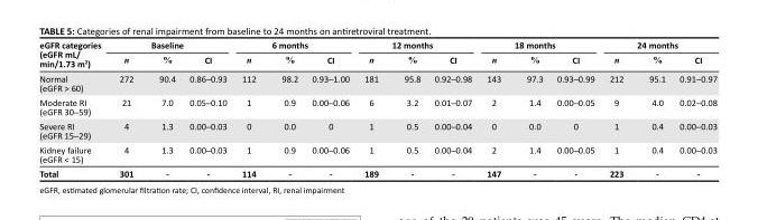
<table><thead><tr><td rowspan="2">eGFR categories (eGFR mL/ min/1.73 m<sup>2</sup>)</td><td colspan="3">Baseline</td><td colspan="3">6 months</td><td colspan="3">12 months</td><td colspan="3">18 months</td><td colspan="3">24 months</td></tr><tr><td>n</td><td>%</td><td>CI</td><td>n</td><td>%</td><td>CI</td><td>n</td><td>%</td><td>CI</td><td>n</td><td>%</td><td>CI</td><td>n</td><td>%</td><td>CI</td></tr></thead><tbody><tr><td>Normal (eGFR &gt; 60)</td><td>272</td><td>90.4</td><td>0.86─0.93</td><td>112</td><td>98.2</td><td>0.93─1.00</td><td>181</td><td>95.8</td><td>0.92─0.98</td><td>143</td><td>97.3</td><td>0.93─0.99</td><td>212</td><td>95.1</td><td>0.91─0.97</td></tr><tr><td>Moderate RI (eGFR 30─59)</td><td>21</td><td>7.0</td><td>0.05─0.10</td><td>1</td><td>0.9</td><td>0.00─0.06</td><td>6</td><td>3.2</td><td>0.01─0.07</td><td>2</td><td>1.4</td><td>0.00─0.05</td><td>9</td><td>4.0</td><td>0.02─0.08</td></tr><tr><td>Severe RI (eGFR 15─29)</td><td>4</td><td>1.3</td><td>0.00─0.03</td><td>0</td><td>0.0</td><td>0</td><td>1</td><td>0.5</td><td>0.00─0.04</td><td>0</td><td>0.0</td><td>0</td><td>1</td><td>0.4</td><td>0.00─0.03</td></tr><tr><td>Kidney failure (eGFR &lt; 15)</td><td>4</td><td>1.3</td><td>0.00─0.03</td><td>1</td><td>0.9</td><td>0.00─0.06</td><td>1</td><td>0.5</td><td>0.00─0.04</td><td>2</td><td>1.4</td><td>0.00─0.05</td><td>1</td><td>0.4</td><td>0.00─0.03</td></tr><tr><td>Total</td><td>301</td><td>-</td><td>-</td><td>114</td><td>-</td><td>-</td><td>189</td><td>-</td><td>-</td><td>147</td><td>-</td><td>-</td><td>223</td><td>-</td><td>-</td></tr></tbody></table>